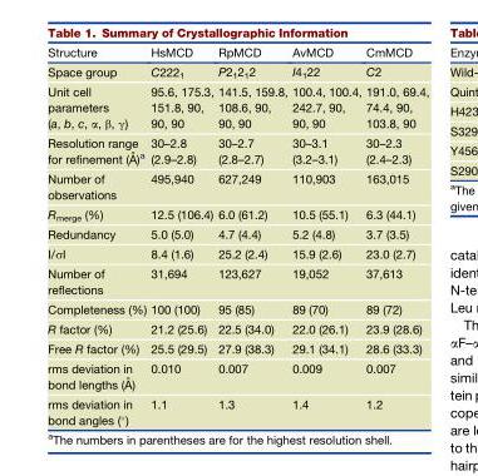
<table><thead><tr><td>Structure</td><td>HsMCD</td><td>RpMCD</td><td>AvMCD</td><td>CmMCD</td></tr></thead><tbody><tr><td>Space group</td><td>C222<sub>1</sub></td><td>P2<sub>1</sub>2<sub>1</sub>2</td><td>I4<sub>1</sub>22</td><td>C2</td></tr><tr><td>Unit cell parameters (a, b, c, α, β, γ)</td><td>95.6, 175.3, 151.8, 90, 90, 90</td><td>141.5, 159.8, 108.6, 90, 90, 90</td><td>100.4, 100.4, 242.7, 90, 90, 90</td><td>191.0, 69.4, 74.4, 90, 103.8, 90</td></tr><tr><td>Resolution range for refinement (A˚ )a</td><td>30–2.8 (2.9–2.8)</td><td>30–2.7 (2.8–2.7)</td><td>30–3.1 (3.2–3.1)</td><td>30–2.3 (2.4–2.3)</td></tr><tr><td>Number of observations</td><td>495,940</td><td>627,249</td><td>110,903</td><td>163,015</td></tr><tr><td>R<sub>merge</sub> (%)</td><td>12.5 (106.4)</td><td>6.0 (61.2)</td><td>10.5 (55.1)</td><td>6.3 (44.1)</td></tr><tr><td>Redundancy</td><td>5.0 (5.0)</td><td>4.7 (4.4)</td><td>5.2 (4.8)</td><td>3.7 (3.5)</td></tr><tr><td>I/σI</td><td>8.4 (1.6)</td><td>25.2 (2.4)</td><td>15.9 (2.6)</td><td>23.0 (2.7)</td></tr><tr><td>Number of reflections</td><td>31,694</td><td>123,627</td><td>19,052</td><td>37,613</td></tr><tr><td>Completeness (%)</td><td>100 (100)</td><td>95 (85)</td><td>89 (70)</td><td>89 (72)</td></tr><tr><td>R factor (%)</td><td>21.2 (25.6)</td><td>22.5 (34.0)</td><td>22.0 (26.1)</td><td>23.9 (28.6)</td></tr><tr><td>Free R factor (%)</td><td>25.5 (29.5)</td><td>27.9 (38.3)</td><td>29.1 (34.1)</td><td>28.6 (33.3)</td></tr><tr><td>rms deviation in bond lengths (A˚ )</td><td>0.010</td><td>0.007</td><td>0.009</td><td>0.007</td></tr><tr><td>rms deviation in bond angles (°)</td><td>1.1</td><td>1.3</td><td>1.4</td><td>1.2</td></tr></tbody></table>